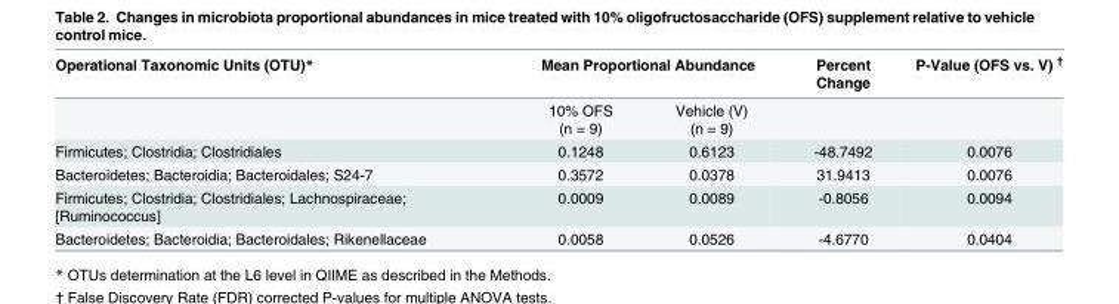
<table><thead><tr><td rowspan="2">Operational Taxonomic Units (OTU)*</td><td colspan="2">Mean Proportional Abundance</td><td rowspan="2">Percent Change</td><td rowspan="2">P-Value (OFS vs. V) <sup>†</sup></td></tr><tr><td>10% OFS (n = 9)</td><td>Vehicle (V) (n = 9)</td></tr></thead><tbody><tr><td>Firmicutes; Clostridia; Clostridiales</td><td>0.1248</td><td>0.6123</td><td>-48.7492</td><td>0.0076</td></tr><tr><td>Bacteroidetes; Bacteroidia; Bacteroidales; S24-7</td><td>0.3572</td><td>0.0378</td><td>31.9413</td><td>0.0076</td></tr><tr><td>Firmicutes; Clostridia; Clostridiales; Lachnospiraceae; [Ruminococcus]</td><td>0.0009</td><td>0.0089</td><td>-0.8056</td><td>0.0094</td></tr><tr><td>Bacteroidetes; Bacteroidia; Bacteroidales; Rikenellaceae</td><td>0.0058</td><td>0.0526</td><td>-4.6770</td><td>0.0404</td></tr></tbody></table>